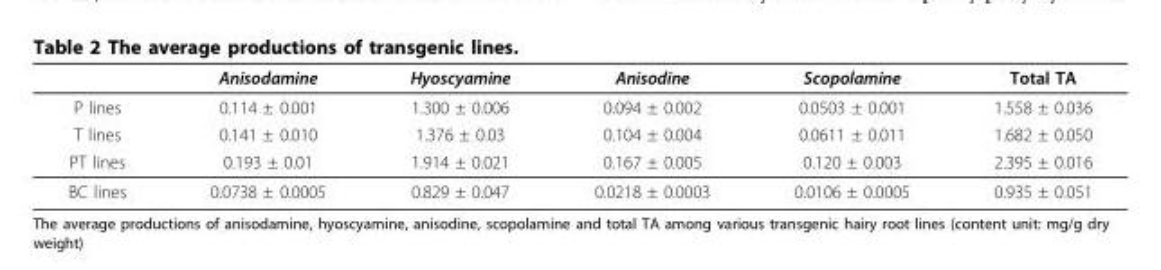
<table><thead><tr><td></td><td>Anisodamine</td><td>Hyoscyamine</td><td>Anisodine</td><td>Scopolamine</td><td>Total TA</td></tr></thead><tbody><tr><td>P lines</td><td>0.114 ± 0.001</td><td>1.300 ± 0.006</td><td>0.094 ± 0.002</td><td>0.0503 ± 0.001</td><td>1.558 ± 0.036</td></tr><tr><td>T lines</td><td>0.141 ± 0.010</td><td>1.376 ± 0.03</td><td>0.104 ± 0.004</td><td>0.0611 ± 0.011</td><td>1.682 ± 0.050</td></tr><tr><td>PT lines</td><td>0.193 ± 0.01</td><td>1.914 ± 0.021</td><td>0.167 ± 0.005</td><td>0.120 ± 0.003</td><td>2.395 ± 0.016</td></tr><tr><td>BC lines</td><td>0.0738 ± 0.0005</td><td>0.829 ± 0.047</td><td>0.0218 ± 0.0003</td><td>0.0106 ± 0.0005</td><td>0.935 ± 0.051</td></tr></tbody></table>